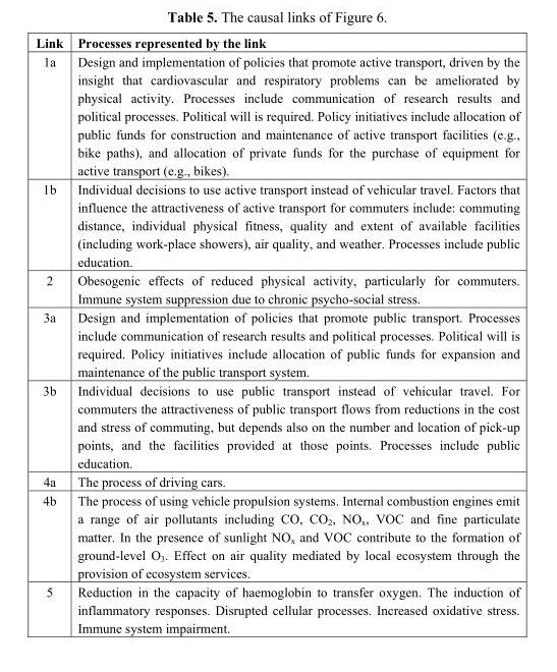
<table><thead><tr><td>Link</td><td>Processes represented by the link</td></tr></thead><tbody><tr><td>1a</td><td>Design and implementation of policies that promote active transport, driven by the insight that cardiovascular and respiratory problems can be ameliorated by physical activity. Processes include communication of research results and political processes. Political will is required. Policy initiatives include allocation of public funds for construction and maintenance of active transport facilities (e.g., bike paths), and allocation of private funds for the purchase of equipment for active transport (e.g., bikes).</td></tr><tr><td>1b</td><td>Individual decisions to use active transport instead of vehicular travel. Factors that influence the attractiveness of active transport for commuters include: commuting distance, individual physical fitness, quality and extent of available facilities (including work-place showers), air quality, and weather. Processes include public education.</td></tr><tr><td>2</td><td>Obesogenic effects of reduced physical activity, particularly for commuters. Immune system suppression due to chronic psycho-social stress.</td></tr><tr><td>3a</td><td>Design and implementation of policies that promote public transport. Processes include communication of research results and political processes. Political will is required. Policy initiatives include allocation of public funds for expansion and maintenance of the public transport system.</td></tr><tr><td>3b</td><td>Individual decisions to use public transport instead of vehicular travel. For commuters the attractiveness of public transport flows from reductions in the cost and stress of commuting, but depends also on the number and location of pick-up points, and the facilities provided at those points. Processes include public education.</td></tr><tr><td>4a</td><td>The process of driving cars.</td></tr><tr><td>4b</td><td>The process of using vehicle propulsion systems. Internal combustion engines emit a range of air pollutants including CO, CO<sub>2</sub>, NO<sub>x</sub>, VOC and fine particulate matter. In the presence of sunlight NO<sub>x</sub> and VOC contribute to the formation of ground-level O<sub>3</sub>. Effect on air quality mediated by local ecosystem through the provision of ecosystem services.</td></tr><tr><td>5</td><td>Reduction in the capacity of haemoglobin to transfer oxygen. The induction of inflammatory responses. Disrupted cellular processes. Increased oxidative stress. Immune system impairment.</td></tr></tbody></table>